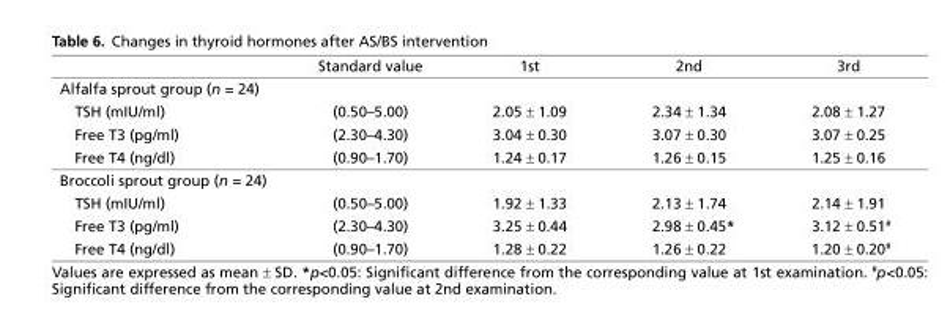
<table><thead><tr><td></td><td>Standard value</td><td>1st</td><td>2nd</td><td>3rd</td></tr></thead><tbody><tr><td colspan="5">Alfalfa sprout group (n = 24)</td></tr><tr><td>TSH (mIU/ml)</td><td>(0.50–5.00)</td><td>2.05 ± 1.09</td><td>2.34 ± 1.34</td><td>2.08 ± 1.27</td></tr><tr><td>Free T3 (pg/ml)</td><td>(2.30–4.30)</td><td>3.04 ± 0.30</td><td>3.07 ± 0.30</td><td>3.07 ± 0.25</td></tr><tr><td>Free T4 (ng/dl)</td><td>(0.90–1.70)</td><td>1.24 ± 0.17</td><td>1.26 ± 0.15</td><td>1.25 ± 0.16</td></tr><tr><td colspan="5">Broccoli sprout group (n = 24)</td></tr><tr><td>TSH (mIU/ml)</td><td>(0.50–5.00)</td><td>1.92 ± 1.33</td><td>2.13 ± 1.74</td><td>2.14 ± 1.91</td></tr><tr><td>Free T3 (pg/ml)</td><td>(2.30–4.30)</td><td>3.25 ± 0.44</td><td>2.98 ± 0.45*</td><td>3.12 ± 0.51<sup>#</sup></td></tr><tr><td>Free T4 (ng/dl)</td><td>(0.90–1.70)</td><td>1.28 ± 0.22</td><td>1.26 ± 0.22</td><td>1.20 ± 0.20<sup>#</sup></td></tr></tbody></table>